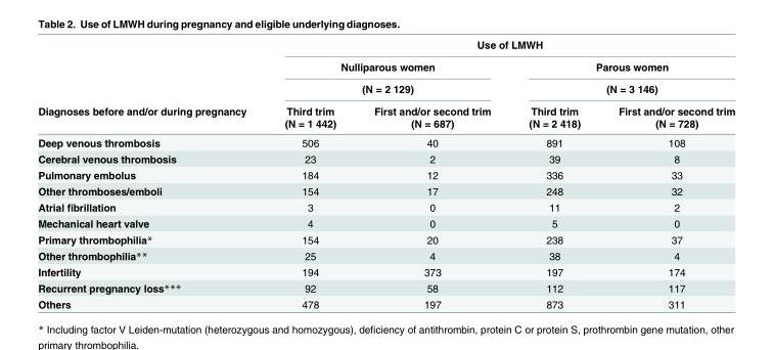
<table><thead><tr><td rowspan="5">Diagnoses before and/or during pregnancy</td><td colspan="4">Use of LMWH</td></tr><tr><td rowspan="2" colspan="2">Nulliparous women (N = 2 129)</td><td rowspan="2" colspan="2">Parous women (N = 3 146)</td></tr><tr></tr><tr><td rowspan="2">Third trim (N = 1 442)</td><td rowspan="2">First and/or second trim (N = 687)</td><td rowspan="2">Third trim (N = 2 418)</td><td rowspan="2">First and/or second trim (N = 728)</td></tr><tr></tr></thead><tbody><tr><td>Deep venous thrombosis</td><td>506</td><td>40</td><td>891</td><td>108</td></tr><tr><td>Cerebral venous thrombosis</td><td>23</td><td>2</td><td>39</td><td>8</td></tr><tr><td>Pulmonary embolus</td><td>184</td><td>12</td><td>336</td><td>33</td></tr><tr><td>Other thromboses/emboli</td><td>154</td><td>17</td><td>248</td><td>32</td></tr><tr><td>Atrial fibrillation</td><td>3</td><td>0</td><td>11</td><td>2</td></tr><tr><td>Mechanical heart valve</td><td>4</td><td>0</td><td>5</td><td>0</td></tr><tr><td>Primary thrombophilia*</td><td>154</td><td>20</td><td>238</td><td>37</td></tr><tr><td>Other thrombophilia**</td><td>25</td><td>4</td><td>38</td><td>4</td></tr><tr><td>Infertility</td><td>194</td><td>373</td><td>197</td><td>174</td></tr><tr><td>Recurrent pregnancy loss***</td><td>92</td><td>58</td><td>112</td><td>117</td></tr><tr><td>Others</td><td>478</td><td>197</td><td>873</td><td>311</td></tr></tbody></table>